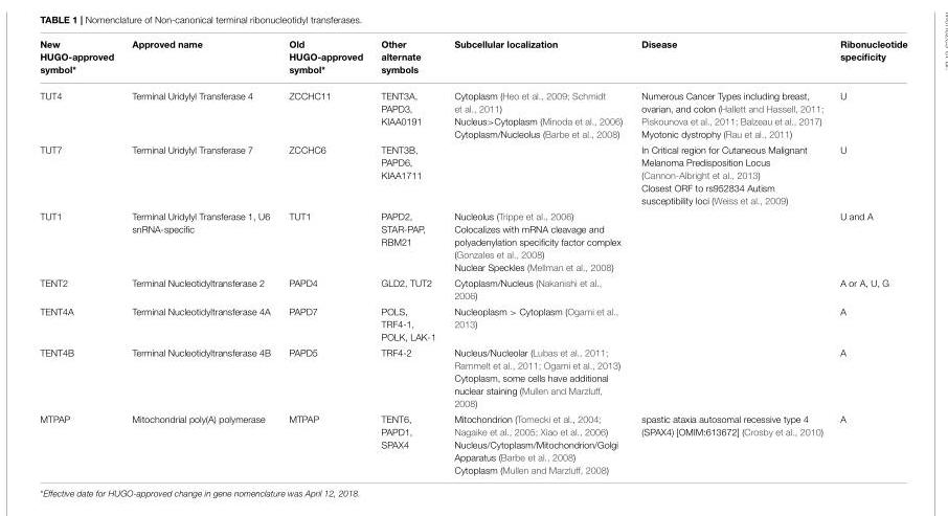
<table><thead><tr><td>New HUGO-approved symbol*</td><td>Approved name</td><td>Old HUGO-approved symbol*</td><td>Other alternate symbols</td><td>Subcellular localization</td><td>Disease</td><td>Ribonucleotide specificity</td></tr></thead><tbody><tr><td>TUT4</td><td>Terminal Uridylyl Transferase 4</td><td>ZCCHC11</td><td>TENT3A, PAPD3, KIAA0191</td><td>Cytoplasm (Heo et al., 2009; Schmidt et al., 2011) Nucleus&gt;Cytoplasm (Minoda et al., 2006) Cytoplasm/Nucleolus (Barbe et al., 2008)</td><td>Numerous Cancer Types including breast, ovarian, and colon (Hallett and Hassell, 2011; Piskounova et al., 2011; Balzeau et al., 2017) Myotonic dystrophy (Rau et al., 2011)</td><td>U</td></tr><tr><td>TUT7</td><td>Terminal Uridylyl Transferase 7</td><td>ZCCHC6</td><td>TENT3B, PAPD6, KIAA1711</td><td></td><td>In Critical region for Cutaneous Malignant Melanoma Predisposition Locus (Cannon-Albright et al., 2013) Closest ORF to rs952834 Autism susceptibility loci (Weiss et al., 2009)</td><td>U</td></tr><tr><td>TUT1</td><td>Terminal Uridylyl Transferase 1, U6 snRNA-specific</td><td>TUT1</td><td>PAPD2, STAR-PAP, RBM21</td><td>Nucleolus (Trippe et al., 2006) Colocalizes with mRNA cleavage and polyadenylation specificity factor complex (Gonzales et al., 2008) Nuclear Speckles (Mellman et al., 2008)</td><td></td><td>U and A</td></tr><tr><td>TENT2</td><td>Terminal Nucleotidyltransferase 2</td><td>PAPD4</td><td>GLD2, TUT2</td><td>Cytoplasm/Nucleus (Nakanishi et al., 2006)</td><td></td><td>A or A, U, G</td></tr><tr><td>TENT4A</td><td>Terminal Nucleotidyltransferase 4A</td><td>PAPD7</td><td>POLS, TRF4-1, POLK, LAK-1</td><td>Nucleoplasm &gt; Cytoplasm (Ogami et al., 2013)</td><td></td><td>A</td></tr><tr><td>TENT4B</td><td>Terminal Nucleotidyltransferase 4B</td><td>PAPD5</td><td>TRF4-2</td><td>Nucleus/Nucleolar (Lubas et al., 2011; Rammelt et al., 2011; Ogami et al., 2013) Cytoplasm, some cells have additional nuclear staining (Mullen and Marzluff, 2008)</td><td></td><td>A</td></tr><tr><td>MTPAP</td><td>Mitochondrial poly(A) polymerase</td><td>MTPAP</td><td>TENT6, PAPD1, SPAX4</td><td>Mitochondrion (Tomecki et al., 2004; Nagaike et al., 2005; Xiao et al., 2006) Nucleus/Cytoplasm/Mitochondrion/Golgi Apparatus (Barbe et al., 2008) Cytoplasm (Mullen and Marzluff, 2008)</td><td>spastic ataxia autosomal recessive type 4 (SPAX4) [OMIM:613672] (Crosby et al., 2010)</td><td>A</td></tr></tbody></table>